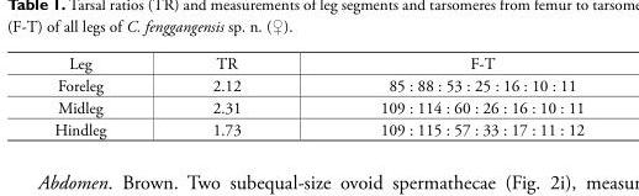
<table><tbody><tr><td>Leg</td><td>TR</td><td>F-T</td></tr><tr><td>Foreleg</td><td>2.12</td><td>85 : 88 : 53 : 25 : 16 : 10 : 11</td></tr><tr><td>Midleg</td><td>2.31</td><td>109 : 114 : 60 : 26 : 16 : 10 : 11</td></tr><tr><td>Hindleg</td><td>1.73</td><td>109 : 115 : 57 : 33 : 17 : 11 : 12</td></tr></tbody></table>